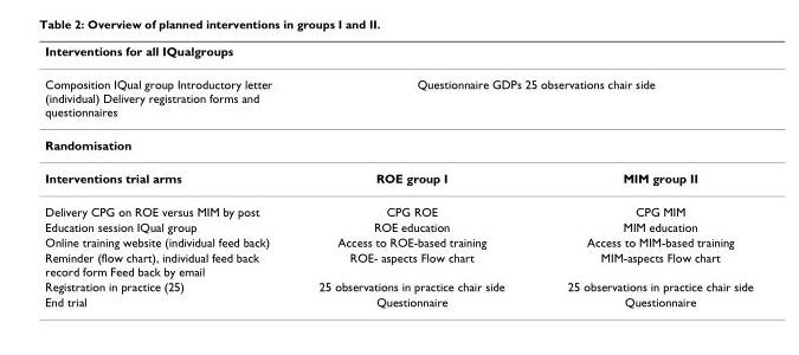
<table><thead><tr><td colspan="3">Interventions for all IQualgroups</td></tr><tr><td>Composition IQual group Introductory letter (individual) Delivery registration forms and questionnaires</td><td colspan="2">Questionnaire GDPs 25 observations chair side</td></tr><tr><td colspan="3">Randomisation</td></tr><tr><td>Interventions trial arms</td><td>ROE group I</td><td>MIM group II</td></tr></thead><tbody><tr><td>Delivery CPG on ROE versus MIM by post</td><td>CPG ROE</td><td>CPG MIM</td></tr><tr><td>Education session IQual group</td><td>ROE education</td><td>MIM education</td></tr><tr><td>Online training website (individual feed back)</td><td>Access to ROE-based training</td><td>Access to MIM-based training</td></tr><tr><td>Reminder (flow chart), individual feed back record form Feed back by email</td><td>ROE- aspects Flow chart</td><td>MIM-aspects Flow chart</td></tr><tr><td>Registration in practice (25)</td><td>25 observations in practice chair side</td><td>25 observations in practice chair side</td></tr><tr><td>End trial</td><td>Questionnaire</td><td>Questionnaire</td></tr></tbody></table>